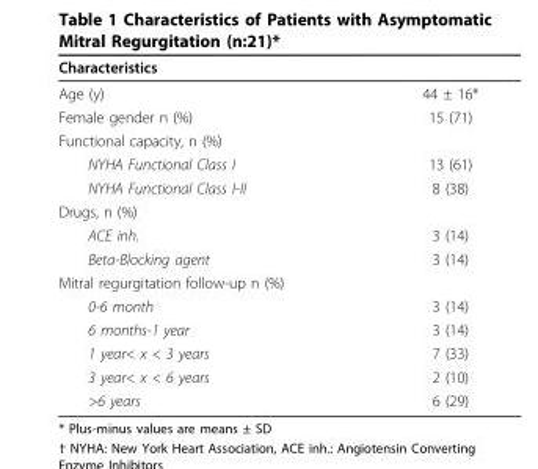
<table><thead><tr><td>Characteristics</td><td></td></tr></thead><tbody><tr><td>Age (y)</td><td>44 ± 16*</td></tr><tr><td>Female gender n (%)</td><td>15 (71)</td></tr><tr><td colspan="2">Functional capacity, n (%)</td></tr><tr><td>NYHA Functional Class I</td><td>13 (61)</td></tr><tr><td>NYHA Functional Class I-II</td><td>8 (38)</td></tr><tr><td colspan="2">Drugs, n (%)</td></tr><tr><td>ACE inh.</td><td>3 (14)</td></tr><tr><td>Beta-Blocking agent</td><td>3 (14)</td></tr><tr><td colspan="2">Mitral regurgitation follow-up n (%)</td></tr><tr><td>0-6 month</td><td>3 (14)</td></tr><tr><td>6 months-1 year</td><td>3 (14)</td></tr><tr><td>1 year&lt; x &lt; 3 years</td><td>7 (33)</td></tr><tr><td>3 year&lt; x &lt; 6 years</td><td>2 (10)</td></tr><tr><td>&gt;6 years</td><td>6 (29)</td></tr></tbody></table>